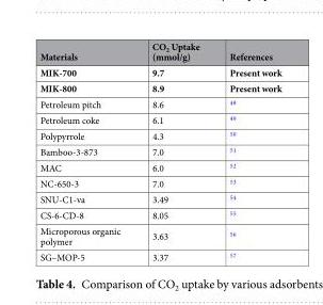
<table><thead><tr><td>Materials</td><td>CO<sub>2</sub> Uptake (mmol/g)</td><td>References</td></tr></thead><tbody><tr><td>MIK-700</td><td>9.7</td><td>Present work</td></tr><tr><td>MIK-800</td><td>8.9</td><td>Present work</td></tr><tr><td>Petroleum pitch</td><td>8.6</td><td><sup>48</sup></td></tr><tr><td>Petroleum coke</td><td>6.1</td><td><sup>49</sup></td></tr><tr><td>Polypyrrole</td><td>4.3</td><td><sup>50</sup></td></tr><tr><td>Bamboo-3-873</td><td>7.0</td><td><sup>51</sup></td></tr><tr><td>MAC</td><td>6.0</td><td><sup>52</sup></td></tr><tr><td>NC-650-3</td><td>7.0</td><td><sup>53</sup></td></tr><tr><td>SNU-C1-va</td><td>3.49</td><td><sup>54</sup></td></tr><tr><td>CS-6-CD-8</td><td>8.05</td><td><sup>55</sup></td></tr><tr><td>Microporous organic polymer</td><td>3.63</td><td><sup>56</sup></td></tr><tr><td>SG–MOP-5</td><td>3.37</td><td><sup>57</sup></td></tr></tbody></table>